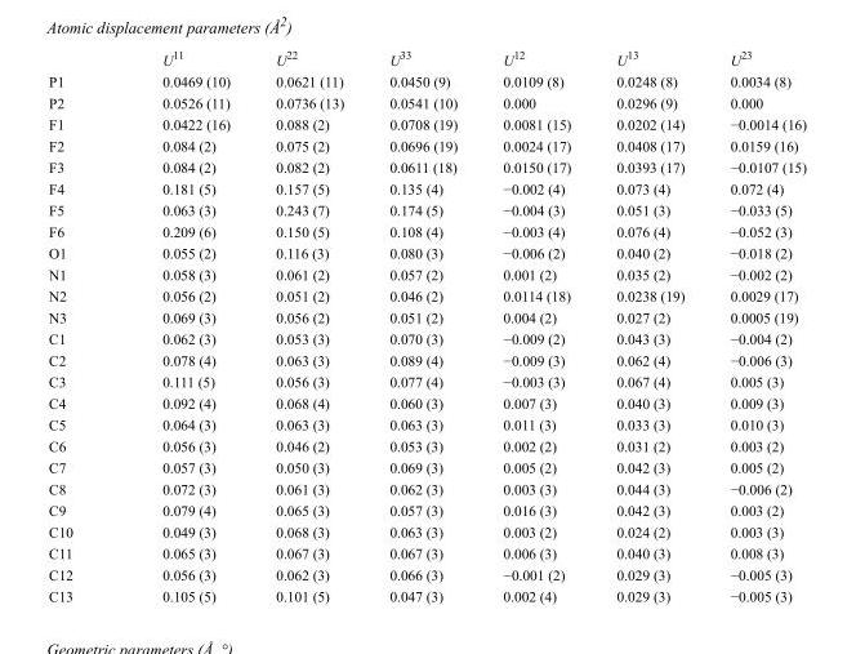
<table><thead><tr><td></td><td>U<sup>11</sup></td><td>U<sup>22</sup></td><td>U<sup>33</sup></td><td>U<sup>12</sup></td><td>U<sup>13</sup></td><td>U<sup>23</sup></td></tr></thead><tbody><tr><td>P1</td><td>0.0469 (10)</td><td>0.0621 (11)</td><td>0.0450 (9)</td><td>0.0109 (8)</td><td>0.0248 (8)</td><td>0.0034 (8)</td></tr><tr><td>P2</td><td>0.0526 (11)</td><td>0.0736 (13)</td><td>0.0541 (10)</td><td>0.000</td><td>0.0296 (9)</td><td>0.000</td></tr><tr><td>F1</td><td>0.0422 (16)</td><td>0.088 (2)</td><td>0.0708 (19)</td><td>0.0081 (15)</td><td>0.0202 (14)</td><td>−0.0014 (16)</td></tr><tr><td>F2</td><td>0.084 (2)</td><td>0.075 (2)</td><td>0.0696 (19)</td><td>0.0024 (17)</td><td>0.0408 (17)</td><td>0.0159 (16)</td></tr><tr><td>F3</td><td>0.084 (2)</td><td>0.082 (2)</td><td>0.0611 (18)</td><td>0.0150 (17)</td><td>0.0393 (17)</td><td>−0.0107 (15)</td></tr><tr><td>F4</td><td>0.181 (5)</td><td>0.157 (5)</td><td>0.135 (4)</td><td>−0.002 (4)</td><td>0.073 (4)</td><td>0.072 (4)</td></tr><tr><td>F5</td><td>0.063 (3)</td><td>0.243 (7)</td><td>0.174 (5)</td><td>−0.004 (3)</td><td>0.051 (3)</td><td>−0.033 (5)</td></tr><tr><td>F6</td><td>0.209 (6)</td><td>0.150 (5)</td><td>0.108 (4)</td><td>−0.003 (4)</td><td>0.076 (4)</td><td>−0.052 (3)</td></tr><tr><td>O1</td><td>0.055 (2)</td><td>0.116 (3)</td><td>0.080 (3)</td><td>−0.006 (2)</td><td>0.040 (2)</td><td>−0.018 (2)</td></tr><tr><td>N1</td><td>0.058 (3)</td><td>0.061 (2)</td><td>0.057 (2)</td><td>0.001 (2)</td><td>0.035 (2)</td><td>−0.002 (2)</td></tr><tr><td>N2</td><td>0.056 (2)</td><td>0.051 (2)</td><td>0.046 (2)</td><td>0.0114 (18)</td><td>0.0238 (19)</td><td>0.0029 (17)</td></tr><tr><td>N3</td><td>0.069 (3)</td><td>0.056 (2)</td><td>0.051 (2)</td><td>0.004 (2)</td><td>0.027 (2)</td><td>0.0005 (19)</td></tr><tr><td>C1</td><td>0.062 (3)</td><td>0.053 (3)</td><td>0.070 (3)</td><td>−0.009 (2)</td><td>0.043 (3)</td><td>−0.004 (2)</td></tr><tr><td>C2</td><td>0.078 (4)</td><td>0.063 (3)</td><td>0.089 (4)</td><td>−0.009 (3)</td><td>0.062 (4)</td><td>−0.006 (3)</td></tr><tr><td>C3</td><td>0.111 (5)</td><td>0.056 (3)</td><td>0.077 (4)</td><td>−0.003 (3)</td><td>0.067 (4)</td><td>0.005 (3)</td></tr><tr><td>C4</td><td>0.092 (4)</td><td>0.068 (4)</td><td>0.060 (3)</td><td>0.007 (3)</td><td>0.040 (3)</td><td>0.009 (3)</td></tr><tr><td>C5</td><td>0.064 (3)</td><td>0.063 (3)</td><td>0.063 (3)</td><td>0.011 (3)</td><td>0.033 (3)</td><td>0.010 (3)</td></tr><tr><td>C6</td><td>0.056 (3)</td><td>0.046 (2)</td><td>0.053 (3)</td><td>0.002 (2)</td><td>0.031 (2)</td><td>0.003 (2)</td></tr><tr><td>C7</td><td>0.057 (3)</td><td>0.050 (3)</td><td>0.069 (3)</td><td>0.005 (2)</td><td>0.042 (3)</td><td>0.005 (2)</td></tr><tr><td>C8</td><td>0.072 (3)</td><td>0.061 (3)</td><td>0.062 (3)</td><td>0.003 (3)</td><td>0.044 (3)</td><td>−0.006 (2)</td></tr><tr><td>C9</td><td>0.079 (4)</td><td>0.065 (3)</td><td>0.057 (3)</td><td>0.016 (3)</td><td>0.042 (3)</td><td>0.003 (2)</td></tr><tr><td>C10</td><td>0.049 (3)</td><td>0.068 (3)</td><td>0.063 (3)</td><td>0.003 (2)</td><td>0.024 (2)</td><td>0.003 (3)</td></tr><tr><td>C11</td><td>0.065 (3)</td><td>0.067 (3)</td><td>0.067 (3)</td><td>0.006 (3)</td><td>0.040 (3)</td><td>0.008 (3)</td></tr><tr><td>C12</td><td>0.056 (3)</td><td>0.062 (3)</td><td>0.066 (3)</td><td>−0.001 (2)</td><td>0.029 (3)</td><td>−0.005 (3)</td></tr><tr><td>C13</td><td>0.105 (5)</td><td>0.101 (5)</td><td>0.047 (3)</td><td>0.002 (4)</td><td>0.029 (3)</td><td>−0.005 (3)</td></tr></tbody></table>